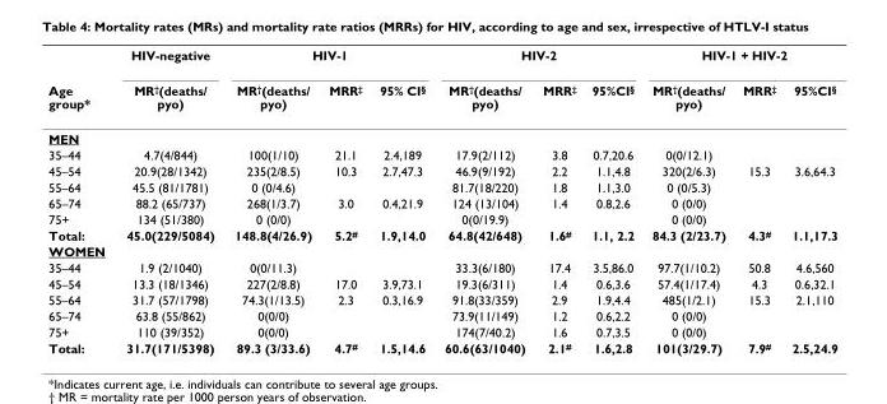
<table><thead><tr><td rowspan="2">Age group*</td><td rowspan="2">HIV-negative MR<sup>†</sup>(deaths/ pyo)</td><td colspan="3">HIV-1</td><td colspan="3">HIV-2</td><td colspan="3">HIV-1 + HIV-2</td></tr><tr><td>MR<sup>†</sup>(deaths/ pyo)</td><td>MRR<sup>‡</sup></td><td>95% CI<sup>§</sup></td><td>MR<sup>†</sup>(deaths/ pyo)</td><td>MRR<sup>‡</sup></td><td>95%CI<sup>§</sup></td><td>MR<sup>†</sup>(deaths/ pyo)</td><td>MRR<sup>‡</sup></td><td>95%CI<sup>§</sup></td></tr></thead><tbody><tr><td colspan="11">MEN</td></tr><tr><td>35–44</td><td>4.7(4/844)</td><td>100(1/10)</td><td>21.1</td><td>2.4,189</td><td>17.9(2/112)</td><td>3.8</td><td>0.7,20.6</td><td>0(0/12.1)</td><td></td><td></td></tr><tr><td>45–54</td><td>20.9(28/1342)</td><td>235(2/8.5)</td><td>10.3</td><td>2.7,47.3</td><td>46.9(9/192)</td><td>2.2</td><td>1.1,4.8</td><td>320(2/6.3)</td><td>15.3</td><td>3.6,64.3</td></tr><tr><td>55–64</td><td>45.5 (81/1781)</td><td>0 (0/4.6)</td><td></td><td></td><td>81.7(18/220)</td><td>1.8</td><td>1.1,3.0</td><td>0 (0/5.3)</td><td></td><td></td></tr><tr><td>65–74</td><td>88.2 (65/737)</td><td>268(1/3.7)</td><td>3.0</td><td>0.4,21.9</td><td>124 (13/104)</td><td>1.4</td><td>0.8,2.6</td><td>0 (0/0)</td><td></td><td></td></tr><tr><td>75+</td><td>134 (51/380)</td><td>0 (0/0)</td><td></td><td></td><td>0(0/19.9)</td><td></td><td></td><td>0 (0/0)</td><td></td><td></td></tr><tr><td>Total:</td><td>45.0(229/5084)</td><td>148.8(4/26.9)</td><td>5.2<sup>#</sup></td><td>1.9,14.0</td><td>64.8(42/648)</td><td>1.6<sup>#</sup></td><td>1.1, 2.2</td><td>84.3 (2/23.7)</td><td>4.3<sup>#</sup></td><td>1.1,17.3</td></tr><tr><td colspan="11">WOMEN</td></tr><tr><td>35–44</td><td>1.9 (2/1040)</td><td>0(0/11.3)</td><td></td><td></td><td>33.3(6/180)</td><td>17.4</td><td>3.5,86.0</td><td>97.7(1/10.2)</td><td>50.8</td><td>4.6,560</td></tr><tr><td>45–54</td><td>13.3 (18/1346)</td><td>227(2/8.8)</td><td>17.0</td><td>3.9,73.1</td><td>19.3(6/311)</td><td>1.4</td><td>0.6,3.6</td><td>57.4(1/17.4)</td><td>4.3</td><td>0.6,32.1</td></tr><tr><td>55–64</td><td>31.7 (57/1798)</td><td>74.3(1/13.5)</td><td>2.3</td><td>0.3,16.9</td><td>91.8(33/359)</td><td>2.9</td><td>1.9,4.4</td><td>485(1/2.1)</td><td>15.3</td><td>2.1,110</td></tr><tr><td>65–74</td><td>63.8 (55/862)</td><td>0(0/0)</td><td></td><td></td><td>73.9(11/149)</td><td>1.2</td><td>0.6,2.2</td><td>0 (0/0)</td><td></td><td></td></tr><tr><td>75+</td><td>110 (39/352)</td><td>0(0/0)</td><td></td><td></td><td>174(7/40.2)</td><td>1.6</td><td>0.7,3.5</td><td>0 (0/0)</td><td></td><td></td></tr><tr><td>Total:</td><td>31.7(171/5398)</td><td>89.3 (3/33.6)</td><td>4.7<sup>#</sup></td><td>1.5,14.6</td><td>60.6(63/1040)</td><td>2.1<sup>#</sup></td><td>1.6,2.8</td><td>101(3/29.7)</td><td>7.9<sup>#</sup></td><td>2.5,24.9</td></tr></tbody></table>